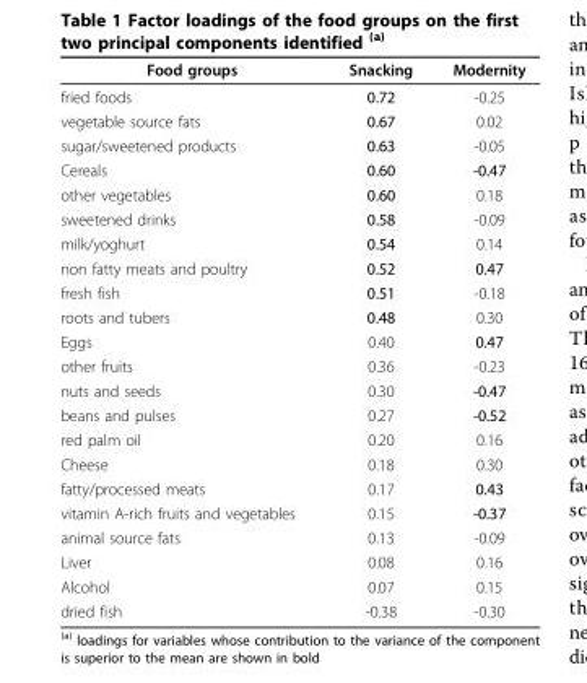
<table><thead><tr><td>Food groups</td><td>Snacking</td><td>Modernity</td></tr></thead><tbody><tr><td>fried foods</td><td>0.72</td><td>-0.25</td></tr><tr><td>vegetable source fats</td><td>0.67</td><td>0.02</td></tr><tr><td>sugar/sweetened products</td><td>0.63</td><td>-0.05</td></tr><tr><td>Cereals</td><td>0.60</td><td>-0.47</td></tr><tr><td>other vegetables</td><td>0.60</td><td>0.18</td></tr><tr><td>sweetened drinks</td><td>0.58</td><td>-0.09</td></tr><tr><td>milk/yoghurt</td><td>0.54</td><td>0.14</td></tr><tr><td>non fatty meats and poultry</td><td>0.52</td><td>0.47</td></tr><tr><td>fresh fish</td><td>0.51</td><td>-0.18</td></tr><tr><td>roots and tubers</td><td>0.48</td><td>0.30</td></tr><tr><td>Eggs</td><td>0.40</td><td>0.47</td></tr><tr><td>other fruits</td><td>0.36</td><td>-0.23</td></tr><tr><td>nuts and seeds</td><td>0.30</td><td>-0.47</td></tr><tr><td>beans and pulses</td><td>0.27</td><td>-0.52</td></tr><tr><td>red palm oil</td><td>0.20</td><td>0.16</td></tr><tr><td>Cheese</td><td>0.18</td><td>0.30</td></tr><tr><td>fatty/processed meats</td><td>0.17</td><td>0.43</td></tr><tr><td>vitamin A-rich fruits and vegetables</td><td>0.15</td><td>-0.37</td></tr><tr><td>animal source fats</td><td>0.13</td><td>-0.09</td></tr><tr><td>Liver</td><td>0.08</td><td>0.16</td></tr><tr><td>Alcohol</td><td>0.07</td><td>0.15</td></tr><tr><td>dried fish</td><td>-0.38</td><td>-0.30</td></tr></tbody></table>